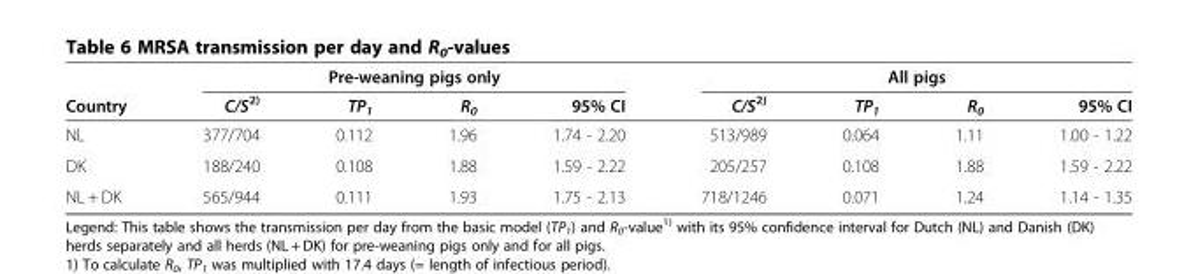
<table><thead><tr><td rowspan="2">Country</td><td colspan="4">Pre-weaning pigs only</td><td colspan="4">All pigs</td></tr><tr><td>C/S<sup>2)</sup></td><td>TP<sub>1</sub></td><td>R<sub>0</sub></td><td>95% CI</td><td>C/S<sup>2)</sup></td><td>TP<sub>1</sub></td><td>R<sub>0</sub></td><td>95% CI</td></tr></thead><tbody><tr><td>NL</td><td>377/704</td><td>0.112</td><td>1.96</td><td>1.74 - 2.20</td><td>513/989</td><td>0.064</td><td>1.11</td><td>1.00 - 1.22</td></tr><tr><td>DK</td><td>188/240</td><td>0.108</td><td>1.88</td><td>1.59 - 2.22</td><td>205/257</td><td>0.108</td><td>1.88</td><td>1.59 - 2.22</td></tr><tr><td>NL + DK</td><td>565/944</td><td>0.111</td><td>1.93</td><td>1.75 - 2.13</td><td>718/1246</td><td>0.071</td><td>1.24</td><td>1.14 - 1.35</td></tr></tbody></table>